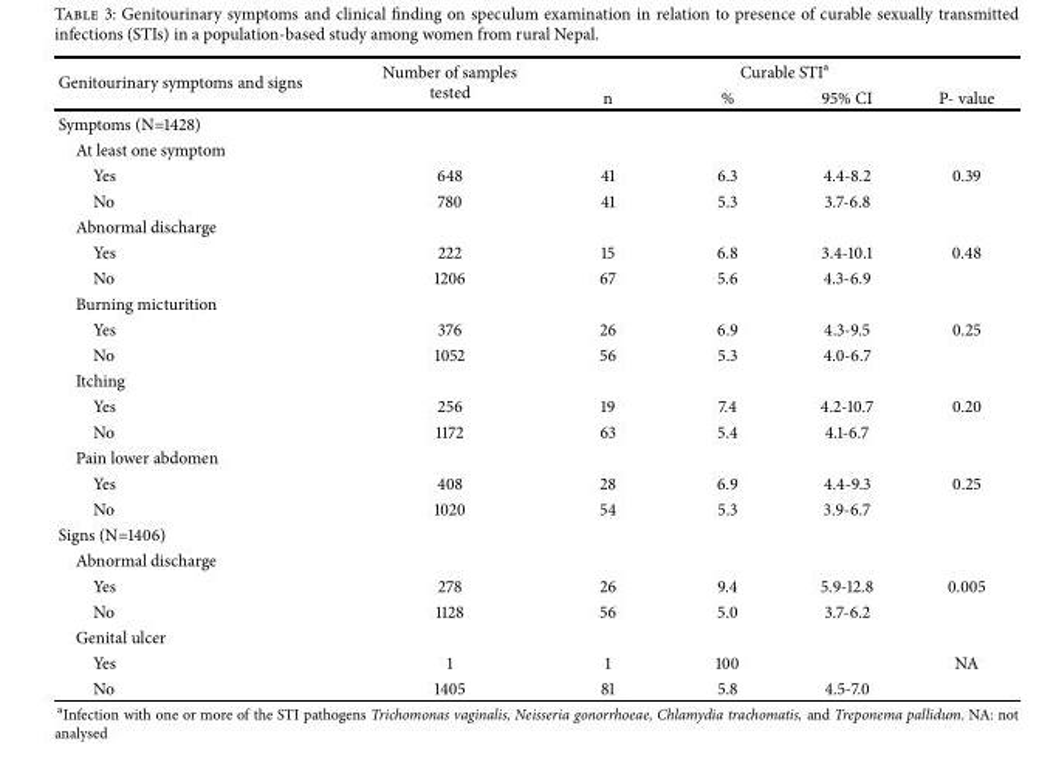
<table><thead><tr><td rowspan="2">Genitourinary symptoms and signs</td><td rowspan="2">Number of samples tested</td><td colspan="4">Curable STI<sup>a</sup></td></tr><tr><td>n</td><td>%</td><td>95% CI</td><td>P- value</td></tr></thead><tbody><tr><td colspan="6">Symptoms (N=1428)</td></tr><tr><td colspan="6">At least one symptom</td></tr><tr><td>Yes</td><td>648</td><td>41</td><td>6.3</td><td>4.4-8.2</td><td>0.39</td></tr><tr><td>No</td><td>780</td><td>41</td><td>5.3</td><td>3.7-6.8</td><td></td></tr><tr><td colspan="6">Abnormal discharge</td></tr><tr><td>Yes</td><td>222</td><td>15</td><td>6.8</td><td>3.4-10.1</td><td>0.48</td></tr><tr><td>No</td><td>1206</td><td>67</td><td>5.6</td><td>4.3-6.9</td><td></td></tr><tr><td colspan="6">Burning micturition</td></tr><tr><td>Yes</td><td>376</td><td>26</td><td>6.9</td><td>4.3-9.5</td><td>0.25</td></tr><tr><td>No</td><td>1052</td><td>56</td><td>5.3</td><td>4.0-6.7</td><td></td></tr><tr><td colspan="6">Itching</td></tr><tr><td>Yes</td><td>256</td><td>19</td><td>7.4</td><td>4.2-10.7</td><td>0.20</td></tr><tr><td>No</td><td>1172</td><td>63</td><td>5.4</td><td>4.1-6.7</td><td></td></tr><tr><td colspan="6">Pain lower abdomen</td></tr><tr><td>Yes</td><td>408</td><td>28</td><td>6.9</td><td>4.4-9.3</td><td>0.25</td></tr><tr><td>No</td><td>1020</td><td>54</td><td>5.3</td><td>3.9-6.7</td><td></td></tr><tr><td colspan="6">Signs (N=1406)</td></tr><tr><td colspan="6">Abnormal discharge</td></tr><tr><td>Yes</td><td>278</td><td>26</td><td>9.4</td><td>5.9-12.8</td><td>0.005</td></tr><tr><td>No</td><td>1128</td><td>56</td><td>5.0</td><td>3.7-6.2</td><td></td></tr><tr><td colspan="6">Genital ulcer</td></tr><tr><td>Yes</td><td>1</td><td>1</td><td>100</td><td></td><td>NA</td></tr><tr><td>No</td><td>1405</td><td>81</td><td>5.8</td><td>4.5-7.0</td><td></td></tr></tbody></table>